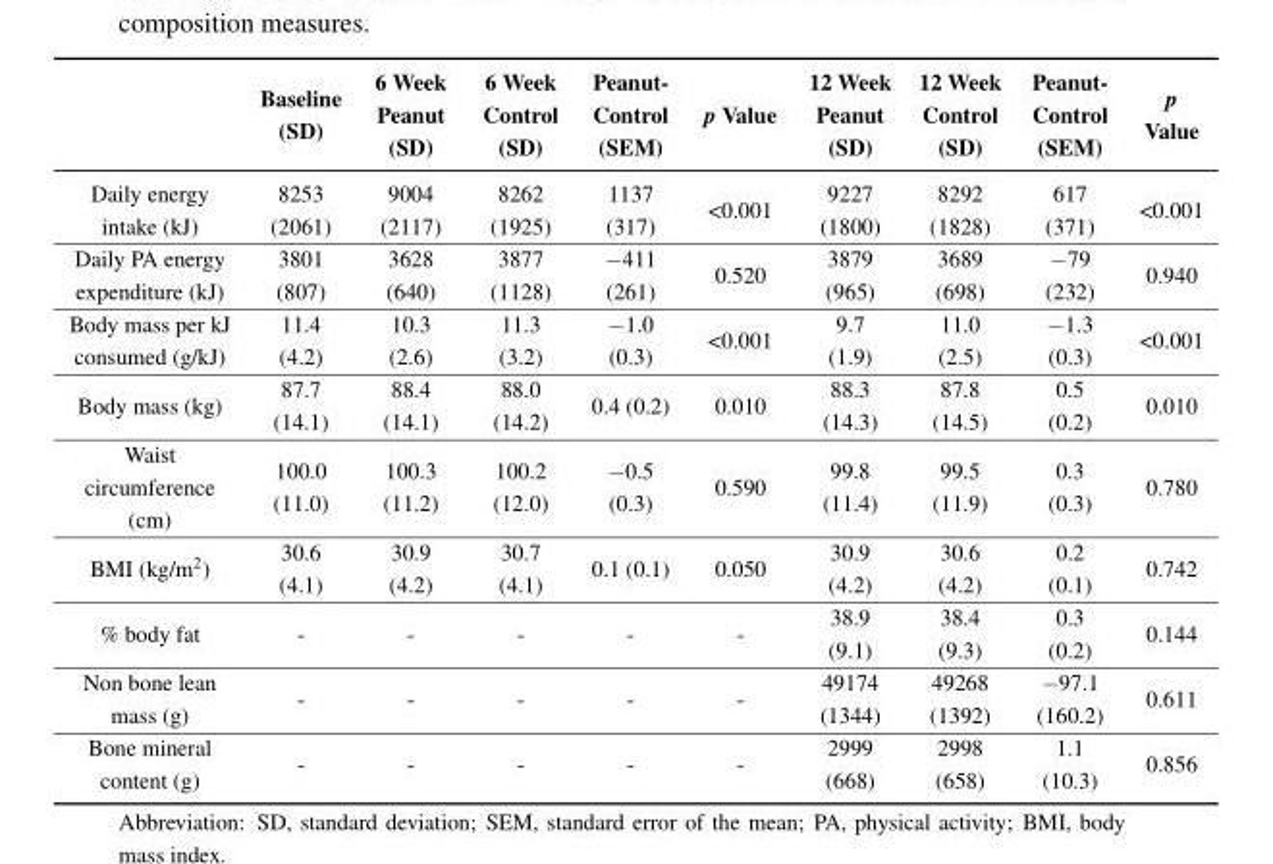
<table><thead><tr><td></td><td>Baseline (SD)</td><td>6 Week Peanut (SD)</td><td>6 Week Control (SD)</td><td>Peanut- Control (SEM)</td><td>p Value</td><td>12 Week Peanut (SD)</td><td>12 Week Control (SD)</td><td>Peanut- Control (SEM)</td><td>p Value</td></tr></thead><tbody><tr><td>Daily energy intake (kJ)</td><td>8253 (2061)</td><td>9004 (2117)</td><td>8262 (1925)</td><td>1137 (317)</td><td>&lt;0.001</td><td>9227 (1800)</td><td>8292 (1828)</td><td>617 (371)</td><td>&lt;0.001</td></tr><tr><td>Daily PA energy expenditure (kJ)</td><td>3801 (807)</td><td>3628 (640)</td><td>3877 (1128)</td><td>−411 (261)</td><td>0.520</td><td>3879 (965)</td><td>3689 (698)</td><td>−79 (232)</td><td>0.940</td></tr><tr><td>Body mass per kJ consumed (g/kJ)</td><td>11.4 (4.2)</td><td>10.3 (2.6)</td><td>11.3 (3.2)</td><td>−1.0 (0.3)</td><td>&lt;0.001</td><td>9.7 (1.9)</td><td>11.0 (2.5)</td><td>−1.3 (0.3)</td><td>&lt;0.001</td></tr><tr><td>Body mass (kg)</td><td>87.7 (14.1)</td><td>88.4 (14.1)</td><td>88.0 (14.2)</td><td>0.4 (0.2)</td><td>0.010</td><td>88.3 (14.3)</td><td>87.8 (14.5)</td><td>0.5 (0.2)</td><td>0.010</td></tr><tr><td>Waist circumference (cm)</td><td>100.0 (11.0)</td><td>100.3 (11.2)</td><td>100.2 (12.0)</td><td>−0.5 (0.3)</td><td>0.590</td><td>99.8 (11.4)</td><td>99.5 (11.9)</td><td>0.3 (0.3)</td><td>0.780</td></tr><tr><td>BMI (kg/m<sup>2</sup>)</td><td>30.6 (4.1)</td><td>30.9 (4.2)</td><td>30.7 (4.1)</td><td>0.1 (0.1)</td><td>0.050</td><td>30.9 (4.2)</td><td>30.6 (4.2)</td><td>0.2 (0.1)</td><td>0.742</td></tr><tr><td>% body fat</td><td>-</td><td>-</td><td>-</td><td>-</td><td>-</td><td>38.9 (9.1)</td><td>38.4 (9.3)</td><td>0.3 (0.2)</td><td>0.144</td></tr><tr><td>Non bone lean mass (g)</td><td>-</td><td>-</td><td>-</td><td>-</td><td>-</td><td>49174 (1344)</td><td>49268 (1392)</td><td>−97.1 (160.2)</td><td>0.611</td></tr><tr><td>Bone mineral content (g)</td><td>-</td><td>-</td><td>-</td><td>-</td><td>-</td><td>2999 (668)</td><td>2998 (658)</td><td>1.1 (10.3)</td><td>0.856</td></tr></tbody></table>